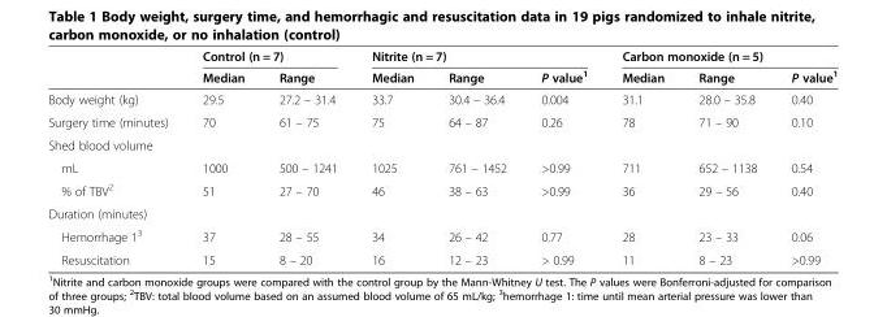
<table><thead><tr><td rowspan="2"></td><td colspan="2">Control (n = 7)</td><td colspan="3">Nitrite (n = 7)</td><td colspan="3">Carbon monoxide (n = 5)</td></tr><tr><td>Median</td><td>Range</td><td>Median</td><td>Range</td><td>P value<sup>1</sup></td><td>Median</td><td>Range</td><td>P value<sup>1</sup></td></tr></thead><tbody><tr><td>Body weight (kg)</td><td>29.5</td><td>27.2 – 31.4</td><td>33.7</td><td>30.4 – 36.4</td><td>0.004</td><td>31.1</td><td>28.0 – 35.8</td><td>0.40</td></tr><tr><td>Surgery time (minutes)</td><td>70</td><td>61 – 75</td><td>75</td><td>64 – 87</td><td>0.26</td><td>78</td><td>71 – 90</td><td>0.10</td></tr><tr><td colspan="9">Shed blood volume</td></tr><tr><td>mL</td><td>1000</td><td>500 – 1241</td><td>1025</td><td>761 – 1452</td><td>&gt;0.99</td><td>711</td><td>652 – 1138</td><td>0.54</td></tr><tr><td>% of TBV<sup>2</sup></td><td>51</td><td>27 – 70</td><td>46</td><td>38 – 63</td><td>&gt;0.99</td><td>36</td><td>29 – 56</td><td>0.40</td></tr><tr><td colspan="9">Duration (minutes)</td></tr><tr><td>Hemorrhage 1<sup>3</sup></td><td>37</td><td>28 – 55</td><td>34</td><td>26 – 42</td><td>0.77</td><td>28</td><td>23 – 33</td><td>0.06</td></tr><tr><td>Resuscitation</td><td>15</td><td>8 – 20</td><td>16</td><td>12 – 23</td><td>&gt; 0.99</td><td>11</td><td>8 – 23</td><td>&gt;0.99</td></tr></tbody></table>